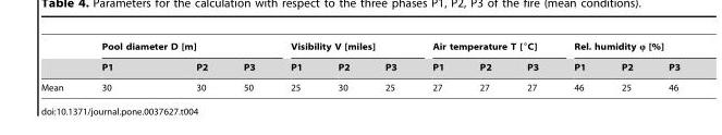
<table><thead><tr><td rowspan="2"></td><td colspan="3">Pool diameter D [m]</td><td colspan="3">Visibility V [miles]</td><td colspan="3">Air temperature T [°C]</td><td colspan="3">Rel. humidity ϕ [%]</td></tr><tr><td>P1</td><td>P2</td><td>P3</td><td>P1</td><td>P2</td><td>P3</td><td>P1</td><td>P2</td><td>P3</td><td>P1</td><td>P2</td><td>P3</td></tr></thead><tbody><tr><td>Mean</td><td>30</td><td>30</td><td>50</td><td>25</td><td>30</td><td>25</td><td>27</td><td>27</td><td>27</td><td>46</td><td>25</td><td>46</td></tr></tbody></table>